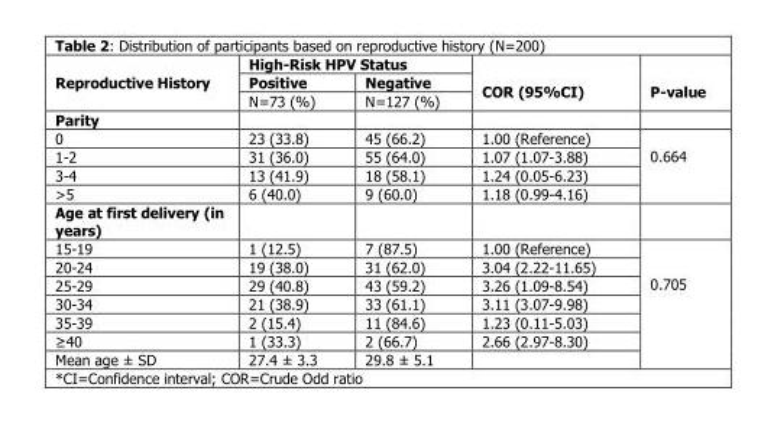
<table><thead><tr><td rowspan="3">Reproductive History</td><td colspan="2">High-Risk HPV Status</td><td rowspan="3">COR (95%CI)</td><td rowspan="3">P-value</td></tr><tr><td rowspan="2">Positive N=73 (%)</td><td rowspan="2">Negative N=127 (%)</td></tr><tr></tr></thead><tbody><tr><td colspan="5">Parity</td></tr><tr><td>0</td><td>23 (33.8)</td><td>45 (66.2)</td><td>1.00 (Reference)</td><td rowspan="4">0.664</td></tr><tr><td>1-2</td><td>31 (36.0)</td><td>55 (64.0)</td><td>1.07 (1.07-3.88)</td></tr><tr><td>3-4</td><td>13 (41.9)</td><td>18 (58.1)</td><td>1.24 (0.05-6.23)</td></tr><tr><td>&gt;5</td><td>6 (40.0)</td><td>9 (60.0)</td><td>1.18 (0.99-4.16)</td></tr><tr><td colspan="5">Age at first delivery (in years)</td></tr><tr><td>15-19</td><td>1 (12.5)</td><td>7 (87.5)</td><td>1.00 (Reference)</td><td rowspan="7">0.705</td></tr><tr><td>20-24</td><td>19 (38.0)</td><td>31 (62.0)</td><td>3.04 (2.22-11.65)</td></tr><tr><td>25-29</td><td>29 (40.8)</td><td>43 (59.2)</td><td>3.26 (1.09-8.54)</td></tr><tr><td>30-34</td><td>21 (38.9)</td><td>33 (61.1)</td><td>3.11 (3.07-9.98)</td></tr><tr><td>35-39</td><td>2 (15.4)</td><td>11 (84.6)</td><td>1.23 (0.11-5.03)</td></tr><tr><td>≥40</td><td>1 (33.3)</td><td>2 (66.7)</td><td>2.66 (2.97-8.30)</td></tr><tr><td>Mean age ± SD</td><td>27.4 ± 3.3</td><td>29.8 ± 5.1</td><td></td></tr></tbody></table>